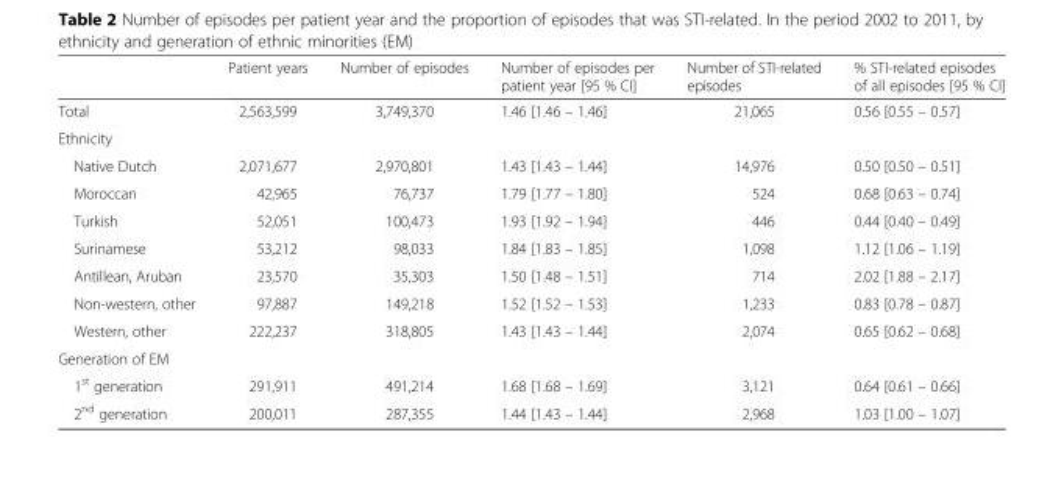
<table><thead><tr><td></td><td>Patient years</td><td>Number of episodes</td><td>Number of episodes per patient year [95 % CI]</td><td>Number of STI-related episodes</td><td>% STI-related episodes of all episodes [95 % CI]</td></tr></thead><tbody><tr><td>Total</td><td>2,563,599</td><td>3,749,370</td><td>1.46 [1.46 – 1.46]</td><td>21,065</td><td>0.56 [0.55 – 0.57]</td></tr><tr><td colspan="6">Ethnicity</td></tr><tr><td>Native Dutch</td><td>2,071,677</td><td>2,970,801</td><td>1.43 [1.43 – 1.44]</td><td>14,976</td><td>0.50 [0.50 – 0.51]</td></tr><tr><td>Moroccan</td><td>42,965</td><td>76,737</td><td>1.79 [1.77 – 1.80]</td><td>524</td><td>0.68 [0.63 – 0.74]</td></tr><tr><td>Turkish</td><td>52,051</td><td>100,473</td><td>1.93 [1.92 – 1.94]</td><td>446</td><td>0.44 [0.40 – 0.49]</td></tr><tr><td>Surinamese</td><td>53,212</td><td>98,033</td><td>1.84 [1.83 – 1.85]</td><td>1,098</td><td>1.12 [1.06 – 1.19]</td></tr><tr><td>Antillean, Aruban</td><td>23,570</td><td>35,303</td><td>1.50 [1.48 – 1.51]</td><td>714</td><td>2.02 [1.88 – 2.17]</td></tr><tr><td>Non-western, other</td><td>97,887</td><td>149,218</td><td>1.52 [1.52 – 1.53]</td><td>1,233</td><td>0.83 [0.78 – 0.87]</td></tr><tr><td>Western, other</td><td>222,237</td><td>318,805</td><td>1.43 [1.43 – 1.44]</td><td>2,074</td><td>0.65 [0.62 – 0.68]</td></tr><tr><td colspan="6">Generation of EM</td></tr><tr><td>1<sup>st</sup> generation</td><td>291,911</td><td>491,214</td><td>1.68 [1.68 – 1.69]</td><td>3,121</td><td>0.64 [0.61 – 0.66]</td></tr><tr><td>2<sup>nd</sup> generation</td><td>200,011</td><td>287,355</td><td>1.44 [1.43 – 1.44]</td><td>2,968</td><td>1.03 [1.00 – 1.07]</td></tr></tbody></table>